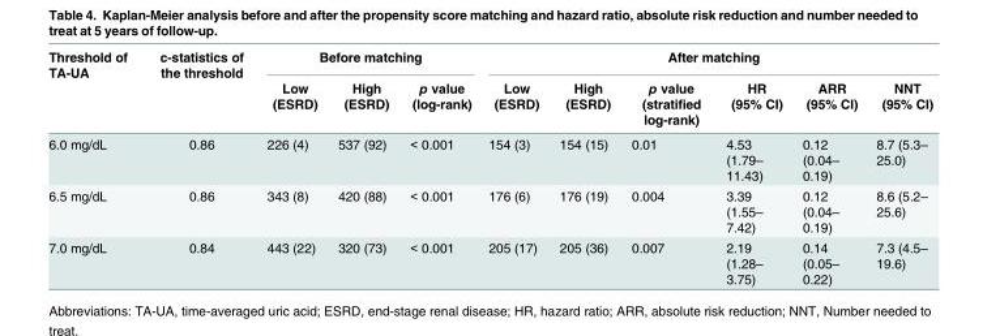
<table><thead><tr><td rowspan="2">Threshold of TA-UA</td><td rowspan="2">c-statistics of the threshold</td><td colspan="3">Before matching</td><td colspan="6">After matching</td></tr><tr><td>Low (ESRD)</td><td>High (ESRD)</td><td>p value (log-rank)</td><td>Low (ESRD)</td><td>High (ESRD)</td><td>p value (stratified log-rank)</td><td>HR (95% CI)</td><td>ARR (95% CI)</td><td>NNT (95% CI)</td></tr></thead><tbody><tr><td>6.0 mg/dL</td><td>0.86</td><td>226 (4)</td><td>537 (92)</td><td>&lt; 0.001</td><td>154 (3)</td><td>154 (15)</td><td>0.01</td><td>4.53 (1.79– 11.43)</td><td>0.12 (0.04– 0.19)</td><td>8.7 (5.3– 25.0)</td></tr><tr><td>6.5 mg/dL</td><td>0.86</td><td>343 (8)</td><td>420 (88)</td><td>&lt; 0.001</td><td>176 (6)</td><td>176 (19)</td><td>0.004</td><td>3.39 (1.55– 7.42)</td><td>0.12 (0.04– 0.19)</td><td>8.6 (5.2– 25.6)</td></tr><tr><td>7.0 mg/dL</td><td>0.84</td><td>443 (22)</td><td>320 (73)</td><td>&lt; 0.001</td><td>205 (17)</td><td>205 (36)</td><td>0.007</td><td>2.19 (1.28– 3.75)</td><td>0.14 (0.05– 0.22)</td><td>7.3 (4.5– 19.6)</td></tr></tbody></table>